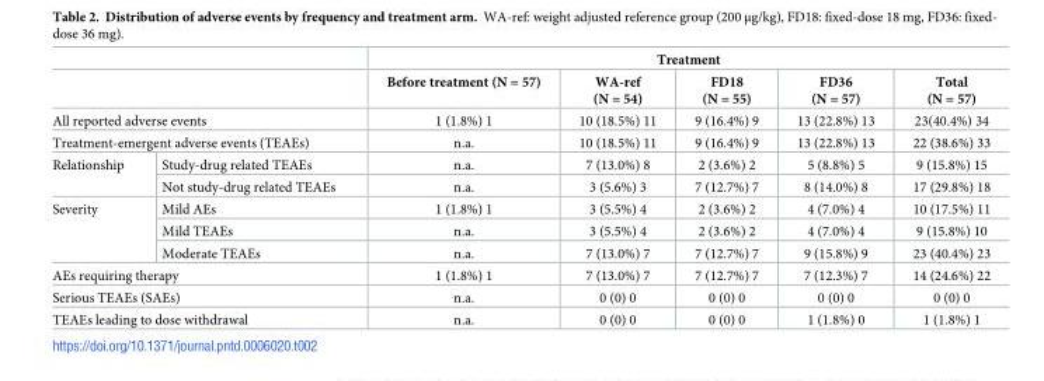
<table><thead><tr><td rowspan="2"></td><td rowspan="2"></td><td colspan="5">Treatment</td></tr><tr><td>Before treatment (N = 57)</td><td>WA-ref (N = 54)</td><td>FD18 (N = 55)</td><td>FD36 (N = 57)</td><td>Total (N = 57)</td></tr></thead><tbody><tr><td colspan="2">All reported adverse events</td><td>1 (1.8%) 1</td><td>10 (18.5%) 11</td><td>9 (16.4%) 9</td><td>13 (22.8%) 13</td><td>23(40.4%) 34</td></tr><tr><td colspan="2">Treatment-emergent adverse events (TEAEs)</td><td>n.a.</td><td>10 (18.5%) 11</td><td>9 (16.4%) 9</td><td>13 (22.8%) 13</td><td>22 (38.6%) 33</td></tr><tr><td rowspan="2">Relationship</td><td>Study-drug related TEAEs</td><td>n.a.</td><td>7 (13.0%) 8</td><td>2 (3.6%) 2</td><td>5 (8.8%) 5</td><td>9 (15.8%) 15</td></tr><tr><td>Not study-drug related TEAEs</td><td>n.a.</td><td>3 (5.6%) 3</td><td>7 (12.7%) 7</td><td>8 (14.0%) 8</td><td>17 (29.8%) 18</td></tr><tr><td rowspan="3">Severity</td><td>Mild AEs</td><td>1 (1.8%) 1</td><td>3 (5.5%) 4</td><td>2 (3.6%) 2</td><td>4 (7.0%) 4</td><td>10 (17.5%) 11</td></tr><tr><td>Mild TEAEs</td><td>n.a.</td><td>3 (5.5%) 4</td><td>2 (3.6%) 2</td><td>4 (7.0%) 4</td><td>9 (15.8%) 10</td></tr><tr><td>Moderate TEAEs</td><td>n.a.</td><td>7 (13.0%) 7</td><td>7 (12.7%) 7</td><td>9 (15.8%) 9</td><td>23 (40.4%) 23</td></tr><tr><td colspan="2">AEs requiring therapy</td><td>1 (1.8%) 1</td><td>7 (13.0%) 7</td><td>7 (12.7%) 7</td><td>7 (12.3%) 7</td><td>14 (24.6%) 22</td></tr><tr><td colspan="2">Serious TEAEs (SAEs)</td><td>n.a.</td><td>0 (0) 0</td><td>0 (0) 0</td><td>0 (0) 0</td><td>0 (0) 0</td></tr><tr><td colspan="2">TEAEs leading to dose withdrawal</td><td>n.a.</td><td>0 (0) 0</td><td>0 (0) 0</td><td>1 (1.8%) 0</td><td>1 (1.8%) 1</td></tr></tbody></table>